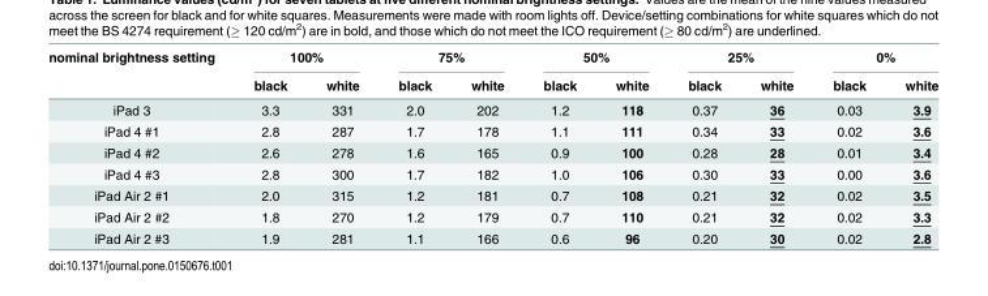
<table><thead><tr><td rowspan="2">nominal brightness setting</td><td colspan="2">100%</td><td colspan="2">75%</td><td colspan="2">50%</td><td colspan="2">25%</td><td colspan="2">0%</td></tr><tr><td>black</td><td>white</td><td>black</td><td>white</td><td>black</td><td>white</td><td>black</td><td>white</td><td>black</td><td>white</td></tr></thead><tbody><tr><td>iPad 3</td><td>3.3</td><td>331</td><td>2.0</td><td>202</td><td>1.2</td><td>118</td><td>0.37</td><td>36</td><td>0.03</td><td>3.9</td></tr><tr><td>iPad 4 #1</td><td>2.8</td><td>287</td><td>1.7</td><td>178</td><td>1.1</td><td>111</td><td>0.34</td><td>33</td><td>0.02</td><td>3.6</td></tr><tr><td>iPad 4 #2</td><td>2.6</td><td>278</td><td>1.6</td><td>165</td><td>0.9</td><td>100</td><td>0.28</td><td>28</td><td>0.01</td><td>3.4</td></tr><tr><td>iPad 4 #3</td><td>2.8</td><td>300</td><td>1.7</td><td>182</td><td>1.0</td><td>106</td><td>0.30</td><td>33</td><td>0.00</td><td>3.6</td></tr><tr><td>iPad Air 2 #1</td><td>2.0</td><td>315</td><td>1.2</td><td>181</td><td>0.7</td><td>108</td><td>0.21</td><td>32</td><td>0.02</td><td>3.5</td></tr><tr><td>iPad Air 2 #2</td><td>1.8</td><td>270</td><td>1.2</td><td>179</td><td>0.7</td><td>110</td><td>0.21</td><td>32</td><td>0.02</td><td>3.3</td></tr><tr><td>iPad Air 2 #3</td><td>1.9</td><td>281</td><td>1.1</td><td>166</td><td>0.6</td><td>96</td><td>0.20</td><td>30</td><td>0.02</td><td>2.8</td></tr></tbody></table>